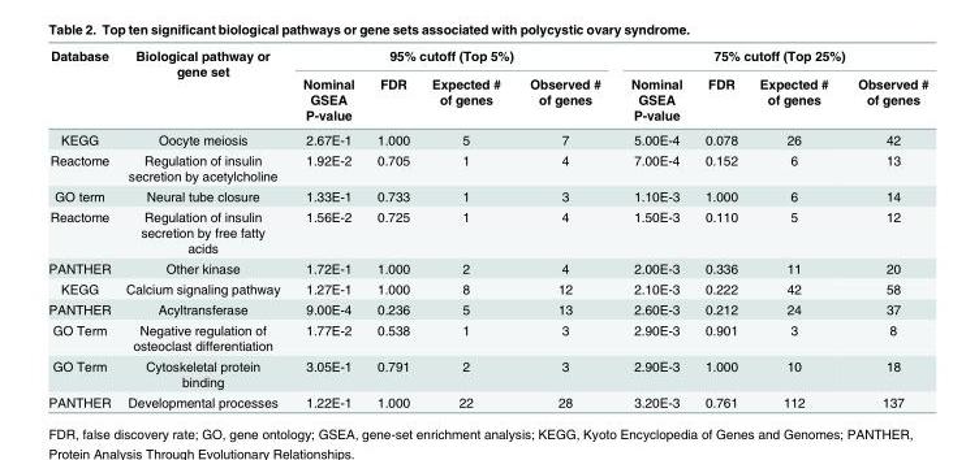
<table><thead><tr><td rowspan="2">Database</td><td rowspan="2">Biological pathway or gene set</td><td colspan="4">95% cutoff (Top 5%)</td><td colspan="4">75% cutoff (Top 25%)</td></tr><tr><td>Nominal GSEA P-value</td><td>FDR</td><td>Expected # of genes</td><td>Observed # of genes</td><td>Nominal GSEA P-value</td><td>FDR</td><td>Expected # of genes</td><td>Observed # of genes</td></tr></thead><tbody><tr><td>KEGG</td><td>Oocyte meiosis</td><td>2.67E-1</td><td>1.000</td><td>5</td><td>7</td><td>5.00E-4</td><td>0.078</td><td>26</td><td>42</td></tr><tr><td>Reactome</td><td>Regulation of insulin secretion by acetylcholine</td><td>1.92E-2</td><td>0.705</td><td>1</td><td>4</td><td>7.00E-4</td><td>0.152</td><td>6</td><td>13</td></tr><tr><td>GO term</td><td>Neural tube closure</td><td>1.33E-1</td><td>0.733</td><td>1</td><td>3</td><td>1.10E-3</td><td>1.000</td><td>6</td><td>14</td></tr><tr><td>Reactome</td><td>Regulation of insulin secretion by free fatty acids</td><td>1.56E-2</td><td>0.725</td><td>1</td><td>4</td><td>1.50E-3</td><td>0.110</td><td>5</td><td>12</td></tr><tr><td>PANTHER</td><td>Other kinase</td><td>1.72E-1</td><td>1.000</td><td>2</td><td>4</td><td>2.00E-3</td><td>0.336</td><td>11</td><td>20</td></tr><tr><td>KEGG</td><td>Calcium signaling pathway</td><td>1.27E-1</td><td>1.000</td><td>8</td><td>12</td><td>2.10E-3</td><td>0.222</td><td>42</td><td>58</td></tr><tr><td>PANTHER</td><td>Acyltransferase</td><td>9.00E-4</td><td>0.236</td><td>5</td><td>13</td><td>2.60E-3</td><td>0.212</td><td>24</td><td>37</td></tr><tr><td>GO Term</td><td>Negative regulation of osteoclast differentiation</td><td>1.77E-2</td><td>0.538</td><td>1</td><td>3</td><td>2.90E-3</td><td>0.901</td><td>3</td><td>8</td></tr><tr><td>GO Term</td><td>Cytoskeletal protein binding</td><td>3.05E-1</td><td>0.791</td><td>2</td><td>3</td><td>2.90E-3</td><td>1.000</td><td>10</td><td>18</td></tr><tr><td>PANTHER</td><td>Developmental processes</td><td>1.22E-1</td><td>1.000</td><td>22</td><td>28</td><td>3.20E-3</td><td>0.761</td><td>112</td><td>137</td></tr></tbody></table>